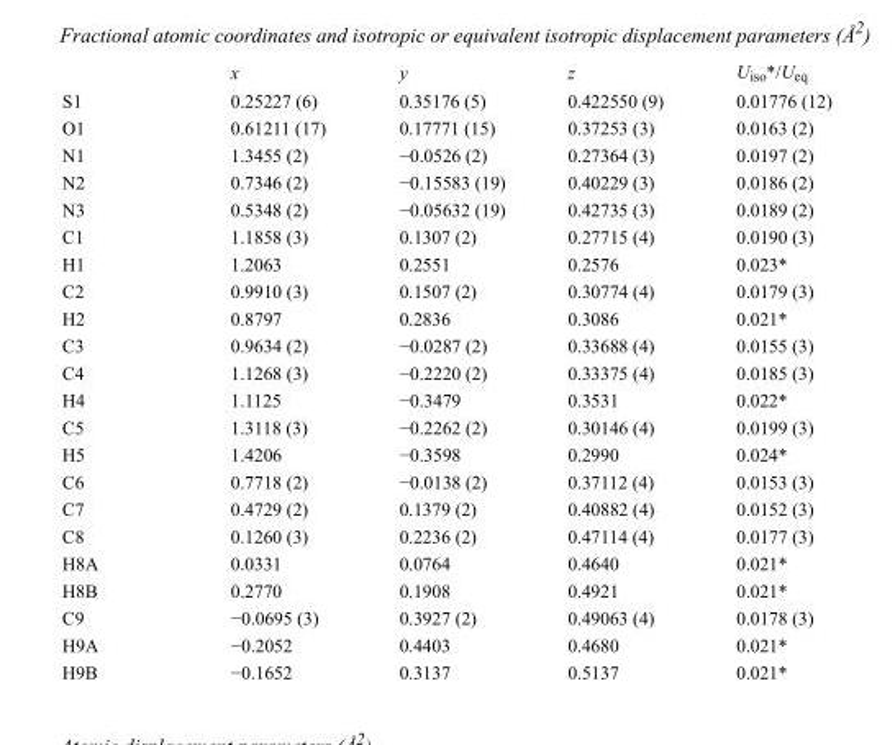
<table><thead><tr><td></td><td>x</td><td>y</td><td>z</td><td>U<sub>iso</sub>*/U<sub>eq</sub></td></tr></thead><tbody><tr><td>S1</td><td>0.25227 (6)</td><td>0.35176 (5)</td><td>0.422550 (9)</td><td>0.01776 (12)</td></tr><tr><td>O1</td><td>0.61211 (17)</td><td>0.17771 (15)</td><td>0.37253 (3)</td><td>0.0163 (2)</td></tr><tr><td>N1</td><td>1.3455 (2)</td><td>−0.0526 (2)</td><td>0.27364 (3)</td><td>0.0197 (2)</td></tr><tr><td>N2</td><td>0.7346 (2)</td><td>−0.15583 (19)</td><td>0.40229 (3)</td><td>0.0186 (2)</td></tr><tr><td>N3</td><td>0.5348 (2)</td><td>−0.05632 (19)</td><td>0.42735 (3)</td><td>0.0189 (2)</td></tr><tr><td>C1</td><td>1.1858 (3)</td><td>0.1307 (2)</td><td>0.27715 (4)</td><td>0.0190 (3)</td></tr><tr><td>H1</td><td>1.2063</td><td>0.2551</td><td>0.2576</td><td>0.023*</td></tr><tr><td>C2</td><td>0.9910 (3)</td><td>0.1507 (2)</td><td>0.30774 (4)</td><td>0.0179 (3)</td></tr><tr><td>H2</td><td>0.8797</td><td>0.2836</td><td>0.3086</td><td>0.021*</td></tr><tr><td>C3</td><td>0.9634 (2)</td><td>−0.0287 (2)</td><td>0.33688 (4)</td><td>0.0155 (3)</td></tr><tr><td>C4</td><td>1.1268 (3)</td><td>−0.2220 (2)</td><td>0.33375 (4)</td><td>0.0185 (3)</td></tr><tr><td>H4</td><td>1.1125</td><td>−0.3479</td><td>0.3531</td><td>0.022*</td></tr><tr><td>C5</td><td>1.3118 (3)</td><td>−0.2262 (2)</td><td>0.30146 (4)</td><td>0.0199 (3)</td></tr><tr><td>H5</td><td>1.4206</td><td>−0.3598</td><td>0.2990</td><td>0.024*</td></tr><tr><td>C6</td><td>0.7718 (2)</td><td>−0.0138 (2)</td><td>0.37112 (4)</td><td>0.0153 (3)</td></tr><tr><td>C7</td><td>0.4729 (2)</td><td>0.1379 (2)</td><td>0.40882 (4)</td><td>0.0152 (3)</td></tr><tr><td>C8</td><td>0.1260 (3)</td><td>0.2236 (2)</td><td>0.47114 (4)</td><td>0.0177 (3)</td></tr><tr><td>H8A</td><td>0.0331</td><td>0.0764</td><td>0.4640</td><td>0.021*</td></tr><tr><td>H8B</td><td>0.2770</td><td>0.1908</td><td>0.4921</td><td>0.021*</td></tr><tr><td>C9</td><td>−0.0695 (3)</td><td>0.3927 (2)</td><td>0.49063 (4)</td><td>0.0178 (3)</td></tr><tr><td>H9A</td><td>−0.2052</td><td>0.4403</td><td>0.4680</td><td>0.021*</td></tr><tr><td>H9B</td><td>−0.1652</td><td>0.3137</td><td>0.5137</td><td>0.021*</td></tr></tbody></table>